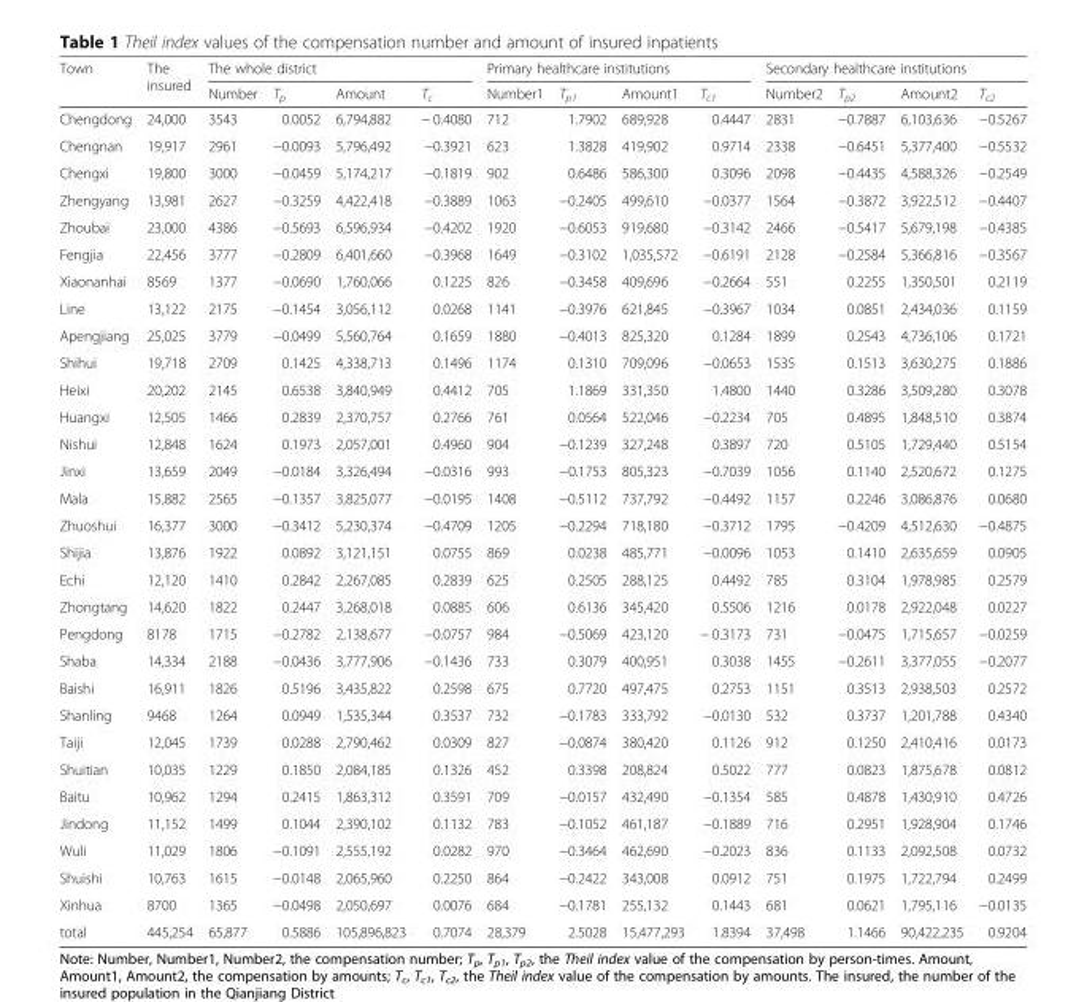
<table><thead><tr><td rowspan="2">Town</td><td rowspan="2">The insured</td><td colspan="4">The whole district</td><td colspan="4">Primary healthcare institutions</td><td colspan="4">Secondary healthcare institutions</td></tr><tr><td>Number</td><td>T<sub>p</sub></td><td>Amount</td><td>T<sub>c</sub></td><td>Number1</td><td>T<sub>p1</sub></td><td>Amount1</td><td>T<sub>c1</sub></td><td>Number2</td><td>T<sub>p2</sub></td><td>Amount2</td><td>T<sub>c2</sub></td></tr></thead><tbody><tr><td>Chengdong</td><td>24,000</td><td>3543</td><td>0.0052</td><td>6,794,882</td><td>− 0.4080</td><td>712</td><td>1.7902</td><td>689,928</td><td>0.4447</td><td>2831</td><td>−0.7887</td><td>6,103,636</td><td>−0.5267</td></tr><tr><td>Chengnan</td><td>19,917</td><td>2961</td><td>−0.0093</td><td>5,796,492</td><td>−0.3921</td><td>623</td><td>1.3828</td><td>419,902</td><td>0.9714</td><td>2338</td><td>−0.6451</td><td>5,377,400</td><td>−0.5532</td></tr><tr><td>Chengxi</td><td>19,800</td><td>3000</td><td>−0.0459</td><td>5,174,217</td><td>−0.1819</td><td>902</td><td>0.6486</td><td>586,300</td><td>0.3096</td><td>2098</td><td>−0.4435</td><td>4,588,326</td><td>−0.2549</td></tr><tr><td>Zhengyang</td><td>13,981</td><td>2627</td><td>−0.3259</td><td>4,422,418</td><td>−0.3889</td><td>1063</td><td>−0.2405</td><td>499,610</td><td>−0.0377</td><td>1564</td><td>−0.3872</td><td>3,922,512</td><td>−0.4407</td></tr><tr><td>Zhoubai</td><td>23,000</td><td>4386</td><td>−0.5693</td><td>6,596,934</td><td>−0.4202</td><td>1920</td><td>−0.6053</td><td>919,680</td><td>−0.3142</td><td>2466</td><td>−0.5417</td><td>5,679,198</td><td>−0.4385</td></tr><tr><td>Fengjia</td><td>22,456</td><td>3777</td><td>−0.2809</td><td>6,401,660</td><td>−0.3968</td><td>1649</td><td>−0.3102</td><td>1,035,572</td><td>−0.6191</td><td>2128</td><td>−0.2584</td><td>5,366,816</td><td>−0.3567</td></tr><tr><td>Xiaonanhai</td><td>8569</td><td>1377</td><td>−0.0690</td><td>1,760,066</td><td>0.1225</td><td>826</td><td>−0.3458</td><td>409,696</td><td>−0.2664</td><td>551</td><td>0.2255</td><td>1,350,501</td><td>0.2119</td></tr><tr><td>Line</td><td>13,122</td><td>2175</td><td>−0.1454</td><td>3,056,112</td><td>0.0268</td><td>1141</td><td>−0.3976</td><td>621,845</td><td>−0.3967</td><td>1034</td><td>0.0851</td><td>2,434,036</td><td>0.1159</td></tr><tr><td>Apengjiang</td><td>25,025</td><td>3779</td><td>−0.0499</td><td>5,560,764</td><td>0.1659</td><td>1880</td><td>−0.4013</td><td>825,320</td><td>0.1284</td><td>1899</td><td>0.2543</td><td>4,736,106</td><td>0.1721</td></tr><tr><td>Shihui</td><td>19,718</td><td>2709</td><td>0.1425</td><td>4,338,713</td><td>0.1496</td><td>1174</td><td>0.1310</td><td>709,096</td><td>−0.0653</td><td>1535</td><td>0.1513</td><td>3,630,275</td><td>0.1886</td></tr><tr><td>Heixi</td><td>20,202</td><td>2145</td><td>0.6538</td><td>3,840,949</td><td>0.4412</td><td>705</td><td>1.1869</td><td>331,350</td><td>1.4800</td><td>1440</td><td>0.3286</td><td>3,509,280</td><td>0.3078</td></tr><tr><td>Huangxi</td><td>12,505</td><td>1466</td><td>0.2839</td><td>2,370,757</td><td>0.2766</td><td>761</td><td>0.0564</td><td>522,046</td><td>−0.2234</td><td>705</td><td>0.4895</td><td>1,848,510</td><td>0.3874</td></tr><tr><td>Nishui</td><td>12,848</td><td>1624</td><td>0.1973</td><td>2,057,001</td><td>0.4960</td><td>904</td><td>−0.1239</td><td>327,248</td><td>0.3897</td><td>720</td><td>0.5105</td><td>1,729,440</td><td>0.5154</td></tr><tr><td>Jinxi</td><td>13,659</td><td>2049</td><td>−0.0184</td><td>3,326,494</td><td>−0.0316</td><td>993</td><td>−0.1753</td><td>805,323</td><td>−0.7039</td><td>1056</td><td>0.1140</td><td>2,520,672</td><td>0.1275</td></tr><tr><td>Mala</td><td>15,882</td><td>2565</td><td>−0.1357</td><td>3,825,077</td><td>−0.0195</td><td>1408</td><td>−0.5112</td><td>737,792</td><td>−0.4492</td><td>1157</td><td>0.2246</td><td>3,086,876</td><td>0.0680</td></tr><tr><td>Zhuoshui</td><td>16,377</td><td>3000</td><td>−0.3412</td><td>5,230,374</td><td>−0.4709</td><td>1205</td><td>−0.2294</td><td>718,180</td><td>−0.3712</td><td>1795</td><td>−0.4209</td><td>4,512,630</td><td>−0.4875</td></tr><tr><td>Shijia</td><td>13,876</td><td>1922</td><td>0.0892</td><td>3,121,151</td><td>0.0755</td><td>869</td><td>0.0238</td><td>485,771</td><td>−0.0096</td><td>1053</td><td>0.1410</td><td>2,635,659</td><td>0.0905</td></tr><tr><td>Echi</td><td>12,120</td><td>1410</td><td>0.2842</td><td>2,267,085</td><td>0.2839</td><td>625</td><td>0.2505</td><td>288,125</td><td>0.4492</td><td>785</td><td>0.3104</td><td>1,978,985</td><td>0.2579</td></tr><tr><td>Zhongtang</td><td>14,620</td><td>1822</td><td>0.2447</td><td>3,268,018</td><td>0.0885</td><td>606</td><td>0.6136</td><td>345,420</td><td>0.5506</td><td>1216</td><td>0.0178</td><td>2,922,048</td><td>0.0227</td></tr><tr><td>Pengdong</td><td>8178</td><td>1715</td><td>−0.2782</td><td>2,138,677</td><td>−0.0757</td><td>984</td><td>−0.5069</td><td>423,120</td><td>− 0.3173</td><td>731</td><td>−0.0475</td><td>1,715,657</td><td>−0.0259</td></tr><tr><td>Shaba</td><td>14,334</td><td>2188</td><td>−0.0436</td><td>3,777,906</td><td>−0.1436</td><td>733</td><td>0.3079</td><td>400,951</td><td>0.3038</td><td>1455</td><td>−0.2611</td><td>3,377,055</td><td>−0.2077</td></tr><tr><td>Baishi</td><td>16,911</td><td>1826</td><td>0.5196</td><td>3,435,822</td><td>0.2598</td><td>675</td><td>0.7720</td><td>497,475</td><td>0.2753</td><td>1151</td><td>0.3513</td><td>2,938,503</td><td>0.2572</td></tr><tr><td>Shanling</td><td>9468</td><td>1264</td><td>0.0949</td><td>1,535,344</td><td>0.3537</td><td>732</td><td>−0.1783</td><td>333,792</td><td>−0.0130</td><td>532</td><td>0.3737</td><td>1,201,788</td><td>0.4340</td></tr><tr><td>Taiji</td><td>12,045</td><td>1739</td><td>0.0288</td><td>2,790,462</td><td>0.0309</td><td>827</td><td>−0.0874</td><td>380,420</td><td>0.1126</td><td>912</td><td>0.1250</td><td>2,410,416</td><td>0.0173</td></tr><tr><td>Shuitian</td><td>10,035</td><td>1229</td><td>0.1850</td><td>2,084,185</td><td>0.1326</td><td>452</td><td>0.3398</td><td>208,824</td><td>0.5022</td><td>777</td><td>0.0823</td><td>1,875,678</td><td>0.0812</td></tr><tr><td>Baitu</td><td>10,962</td><td>1294</td><td>0.2415</td><td>1,863,312</td><td>0.3591</td><td>709</td><td>−0.0157</td><td>432,490</td><td>−0.1354</td><td>585</td><td>0.4878</td><td>1,430,910</td><td>0.4726</td></tr><tr><td>Jindong</td><td>11,152</td><td>1499</td><td>0.1044</td><td>2,390,102</td><td>0.1132</td><td>783</td><td>−0.1052</td><td>461,187</td><td>−0.1889</td><td>716</td><td>0.2951</td><td>1,928,904</td><td>0.1746</td></tr><tr><td>Wuli</td><td>11,029</td><td>1806</td><td>−0.1091</td><td>2,555,192</td><td>0.0282</td><td>970</td><td>−0.3464</td><td>462,690</td><td>−0.2023</td><td>836</td><td>0.1133</td><td>2,092,508</td><td>0.0732</td></tr><tr><td>Shuishi</td><td>10,763</td><td>1615</td><td>−0.0148</td><td>2,065,960</td><td>0.2250</td><td>864</td><td>−0.2422</td><td>343,008</td><td>0.0912</td><td>751</td><td>0.1975</td><td>1,722,794</td><td>0.2499</td></tr><tr><td>Xinhua</td><td>8700</td><td>1365</td><td>−0.0498</td><td>2,050,697</td><td>0.0076</td><td>684</td><td>−0.1781</td><td>255,132</td><td>0.1443</td><td>681</td><td>0.0621</td><td>1,795,116</td><td>−0.0135</td></tr><tr><td>total</td><td>445,254</td><td>65,877</td><td>0.5886</td><td>105,896,823</td><td>0.7074</td><td>28,379</td><td>2.5028</td><td>15,477,293</td><td>1.8394</td><td>37,498</td><td>1.1466</td><td>90,422,235</td><td>0.9204</td></tr></tbody></table>